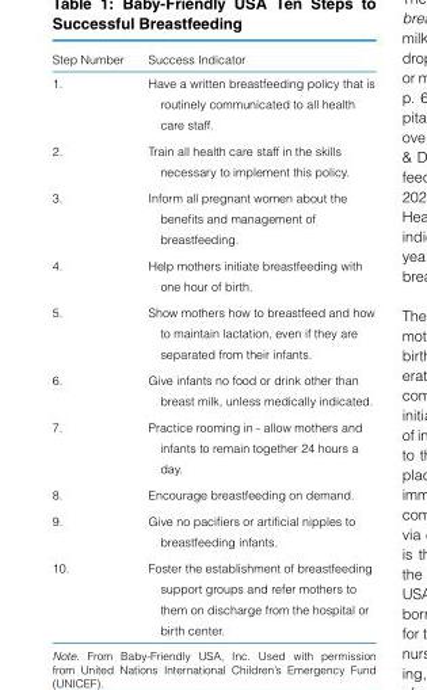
<table><thead><tr><td>Step Number</td><td>Success Indicator</td></tr></thead><tbody><tr><td>1.</td><td>Have a written breastfeeding policy that is routinely communicated to all health care staff.</td></tr><tr><td>2.</td><td>Train all health care staff in the skills necessary to implement this policy.</td></tr><tr><td>3.</td><td>Inform all pregnant women about the benefits and management of breastfeeding.</td></tr><tr><td>4.</td><td>Help mothers initiate breastfeeding with one hour of birth.</td></tr><tr><td>5.</td><td>Show mothers how to breastfeed and how to maintain lactation, even if they are separated from their infants.</td></tr><tr><td>6.</td><td>Give infants no food or drink other than breast milk, unless medically indicated.</td></tr><tr><td>7.</td><td>Practice rooming in - allow mothers and infants to remain together 24 hours a day.</td></tr><tr><td>8.</td><td>Encourage breastfeeding on demand.</td></tr><tr><td>9.</td><td>Give no pacifiers or artificial nipples to breastfeeding infants.</td></tr><tr><td>10.</td><td>Foster the establishment of breastfeeding support groups and refer mothers to them on discharge from the hospital or birth center.</td></tr></tbody></table>